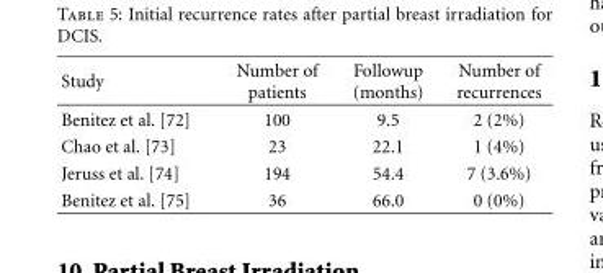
<table><thead><tr><td>Study</td><td>Number of patients</td><td>Followup (months)</td><td>Number of recurrences</td></tr></thead><tbody><tr><td>Benitez et al. [72]</td><td>100</td><td>9.5</td><td>2 (2%)</td></tr><tr><td>Chao et al. [73]</td><td>23</td><td>22.1</td><td>1 (4%)</td></tr><tr><td>Jeruss et al. [74]</td><td>194</td><td>54.4</td><td>7 (3.6%)</td></tr><tr><td>Benitez et al. [75]</td><td>36</td><td>66.0</td><td>0 (0%)</td></tr></tbody></table>